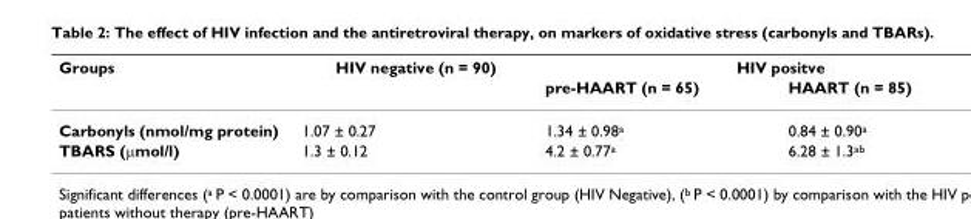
<table><thead><tr><td rowspan="2">Groups</td><td rowspan="2">HIV negative (n = 90)</td><td colspan="2">HIV positve</td></tr><tr><td>pre-HAART (n = 65)</td><td>HAART (n = 85)</td></tr></thead><tbody><tr><td>Carbonyls (nmol/mg protein)</td><td>1.07 ± 0.27</td><td>1.34 ± 0.98<sup>a</sup></td><td>0.84 ± 0.90<sup>a</sup></td></tr><tr><td>TBARS (μmol/l)</td><td>1.3 ± 0.12</td><td>4.2 ± 0.77<sup>a</sup></td><td>6.28 ± 1.3<sup>ab</sup></td></tr></tbody></table>